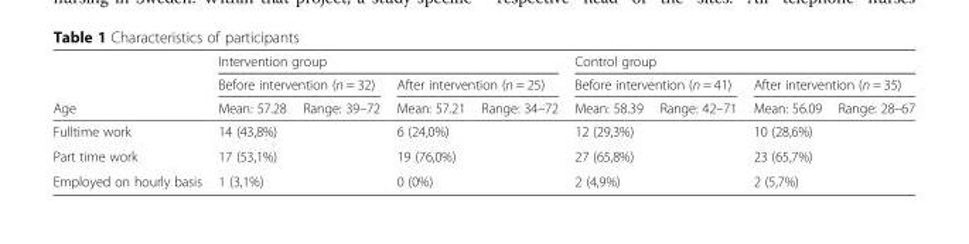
<table><thead><tr><td rowspan="3">Age</td><td colspan="4">Intervention group</td><td colspan="4">Control group</td></tr><tr><td colspan="2">Before intervention (n = 32)</td><td colspan="2">After intervention (n = 25)</td><td colspan="2">Before intervention (n = 41)</td><td colspan="2">After intervention (n = 35)</td></tr><tr><td>Mean: 57.28</td><td>Range: 39–72</td><td>Mean: 57.21</td><td>Range: 34–72</td><td>Mean: 58.39</td><td>Range: 42–71</td><td>Mean: 56.09</td><td>Range: 28–67</td></tr></thead><tbody><tr><td>Fulltime work</td><td colspan="2">14 (43,8%)</td><td colspan="2">6 (24,0%)</td><td colspan="2">12 (29,3%)</td><td colspan="2">10 (28,6%)</td></tr><tr><td>Part time work</td><td colspan="2">17 (53,1%)</td><td colspan="2">19 (76,0%)</td><td colspan="2">27 (65,8%)</td><td colspan="2">23 (65,7%)</td></tr><tr><td>Employed on hourly basis</td><td colspan="2">1 (3,1%)</td><td colspan="2">0 (0%)</td><td colspan="2">2 (4,9%)</td><td colspan="2">2 (5,7%)</td></tr></tbody></table>